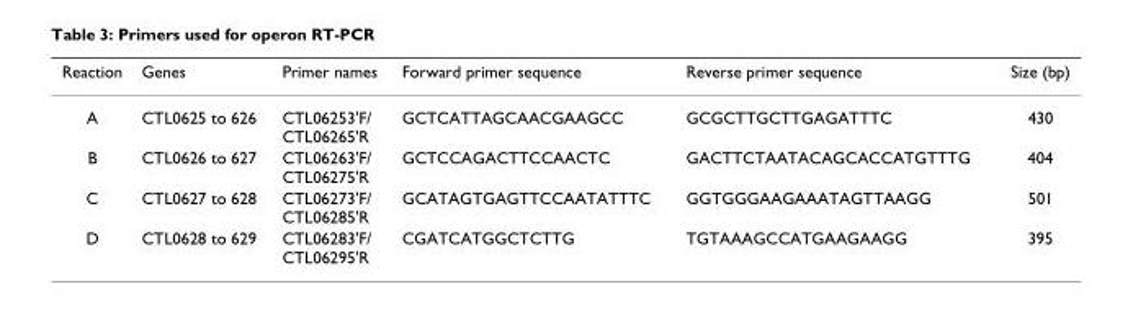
<table><thead><tr><td>Reaction</td><td>Genes</td><td>Primer names</td><td>Forward primer sequence</td><td>Reverse primer sequence</td><td>Size (bp)</td></tr></thead><tbody><tr><td>A</td><td>CTL0625 to 626</td><td>CTL06253&#x27;F/ CTL06265&#x27;R</td><td>GCTCATTAGCAACGAAGCC</td><td>GCGCTTGCTTGAGATTTC</td><td>430</td></tr><tr><td>B</td><td>CTL0626 to 627</td><td>CTL06263&#x27;F/ CTL06275&#x27;R</td><td>GCTCCAGACTTCCAACTC</td><td>GACTTCTAATACAGCACCATGTTTG</td><td>404</td></tr><tr><td>C</td><td>CTL0627 to 628</td><td>CTL06273&#x27;F/ CTL06285&#x27;R</td><td>GCATAGTGAGTTCCAATATTTC</td><td>GGTGGGAAGAAATAGTTAAGG</td><td>501</td></tr><tr><td>D</td><td>CTL0628 to 629</td><td>CTL06283&#x27;F/ CTL06295&#x27;R</td><td>CGATCATGGCTCTTG</td><td>TGTAAAGCCATGAAGAAGG</td><td>395</td></tr></tbody></table>